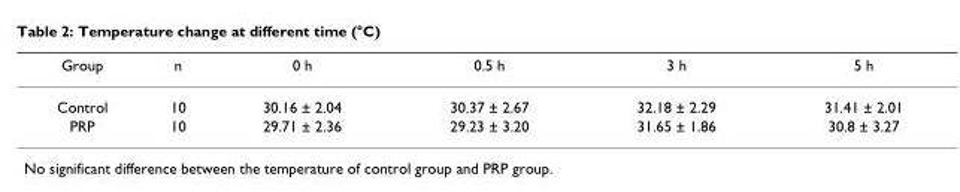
<table><thead><tr><td>Group</td><td>n</td><td>0 h</td><td>0.5 h</td><td>3 h</td><td>5 h</td></tr></thead><tbody><tr><td>Control</td><td>10</td><td>30.16 ± 2.04</td><td>30.37 ± 2.67</td><td>32.18 ± 2.29</td><td>31.41 ± 2.01</td></tr><tr><td>PRP</td><td>10</td><td>29.71 ± 2.36</td><td>29.23 ± 3.20</td><td>31.65 ± 1.86</td><td>30.8 ± 3.27</td></tr></tbody></table>